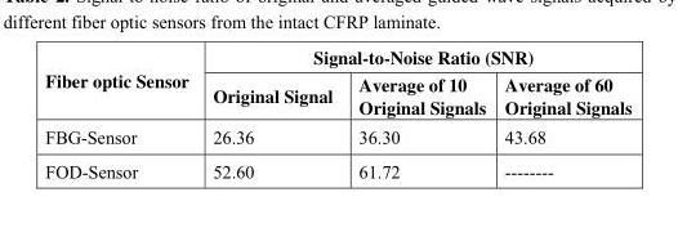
<table><thead><tr><td rowspan="2">Fiber optic Sensor</td><td colspan="3">Signal-to-Noise Ratio (SNR)</td></tr><tr><td>Original Signal</td><td>Average of 10 Original Signals</td><td>Average of 60 Original Signals</td></tr></thead><tbody><tr><td>FBG-Sensor</td><td>26.36</td><td>36.30</td><td>43.68</td></tr><tr><td>FOD-Sensor</td><td>52.60</td><td>61.72</td><td>--------</td></tr></tbody></table>